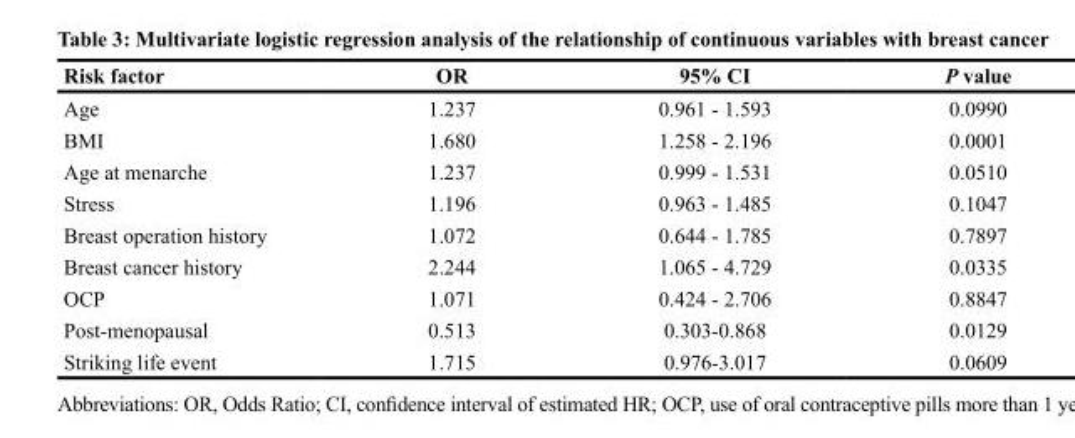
<table><thead><tr><td>Risk factor</td><td>OR</td><td>95% CI</td><td>P value</td></tr></thead><tbody><tr><td>Age</td><td>1.237</td><td>0.961 - 1.593</td><td>0.0990</td></tr><tr><td>BMI</td><td>1.680</td><td>1.258 - 2.196</td><td>0.0001</td></tr><tr><td>Age at menarche</td><td>1.237</td><td>0.999 - 1.531</td><td>0.0510</td></tr><tr><td>Stress</td><td>1.196</td><td>0.963 - 1.485</td><td>0.1047</td></tr><tr><td>Breast operation history</td><td>1.072</td><td>0.644 - 1.785</td><td>0.7897</td></tr><tr><td>Breast cancer history</td><td>2.244</td><td>1.065 - 4.729</td><td>0.0335</td></tr><tr><td>OCP</td><td>1.071</td><td>0.424 - 2.706</td><td>0.8847</td></tr><tr><td>Post-menopausal</td><td>0.513</td><td>0.303-0.868</td><td>0.0129</td></tr><tr><td>Striking life event</td><td>1.715</td><td>0.976-3.017</td><td>0.0609</td></tr></tbody></table>